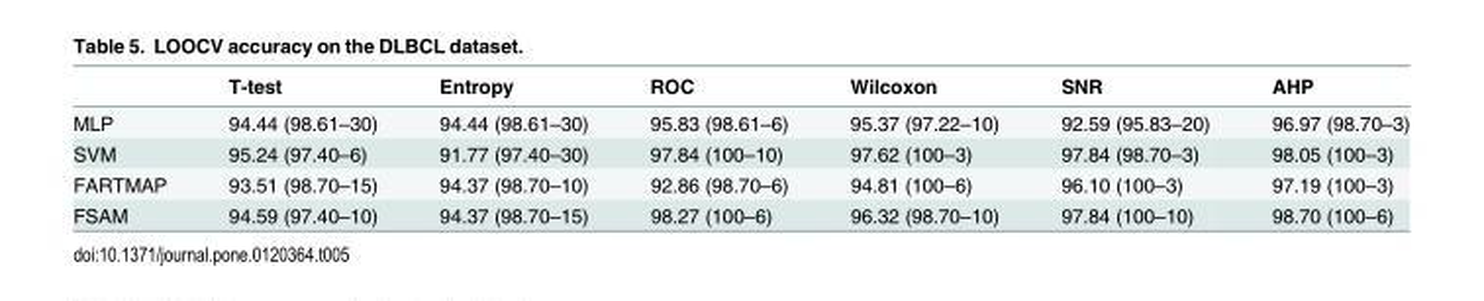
<table><thead><tr><td></td><td>T-test</td><td>Entropy</td><td>ROC</td><td>Wilcoxon</td><td>SNR</td><td>AHP</td></tr></thead><tbody><tr><td>MLP</td><td>94.44 (98.61–30)</td><td>94.44 (98.61–30)</td><td>95.83 (98.61–6)</td><td>95.37 (97.22–10)</td><td>92.59 (95.83–20)</td><td>96.97 (98.70–3)</td></tr><tr><td>SVM</td><td>95.24 (97.40–6)</td><td>91.77 (97.40–30)</td><td>97.84 (100–10)</td><td>97.62 (100–3)</td><td>97.84 (98.70–3)</td><td>98.05 (100–3)</td></tr><tr><td>FARTMAP</td><td>93.51 (98.70–15)</td><td>94.37 (98.70–10)</td><td>92.86 (98.70–6)</td><td>94.81 (100–6)</td><td>96.10 (100–3)</td><td>97.19 (100–3)</td></tr><tr><td>FSAM</td><td>94.59 (97.40–10)</td><td>94.37 (98.70–15)</td><td>98.27 (100–6)</td><td>96.32 (98.70–10)</td><td>97.84 (100–10)</td><td>98.70 (100–6)</td></tr></tbody></table>